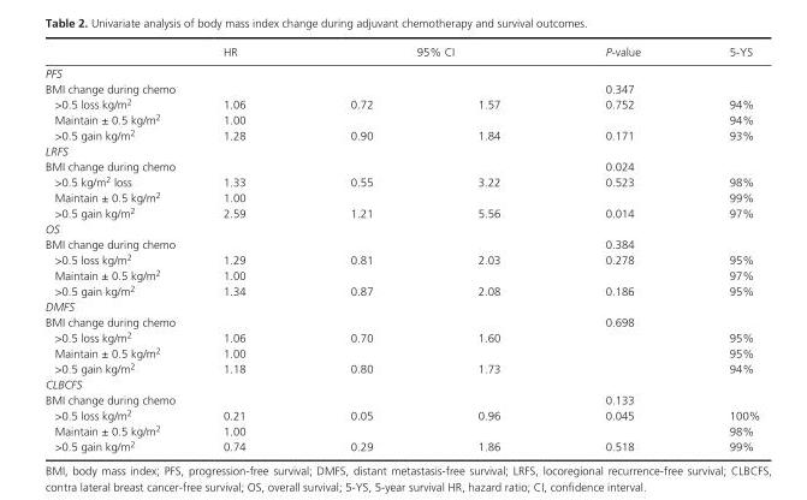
<table><thead><tr><td></td><td>HR</td><td colspan="2">95% CI</td><td>P- value</td><td>5- YS</td></tr><tr><td colspan="6">PFS</td></tr><tr><td>BMI change during chemo</td><td></td><td></td><td></td><td>0.347</td><td></td></tr></thead><tbody><tr><td>&gt;0.5 loss kg/m<sup>2</sup></td><td>1.06</td><td>0.72</td><td>1.57</td><td>0.752</td><td>94%</td></tr><tr><td>Maintain ± 0.5 kg/m<sup>2</sup></td><td>1.00</td><td></td><td></td><td></td><td>94%</td></tr><tr><td>&gt;0.5 gain kg/m<sup>2</sup></td><td>1.28</td><td>0.90</td><td>1.84</td><td>0.171</td><td>93%</td></tr><tr><td colspan="6">LRFS</td></tr><tr><td>BMI change during chemo</td><td></td><td></td><td></td><td>0.024</td><td></td></tr><tr><td>&gt;0.5 kg/m<sup>2</sup> loss</td><td>1.33</td><td>0.55</td><td>3.22</td><td>0.523</td><td>98%</td></tr><tr><td>Maintain ± 0.5 kg/m<sup>2</sup></td><td>1.00</td><td></td><td></td><td></td><td>99%</td></tr><tr><td>&gt;0.5 gain kg/m<sup>2</sup></td><td>2.59</td><td>1.21</td><td>5.56</td><td>0.014</td><td>97%</td></tr><tr><td colspan="6">OS</td></tr><tr><td>BMI change during chemo</td><td></td><td></td><td></td><td>0.384</td><td></td></tr><tr><td>&gt;0.5 loss kg/m<sup>2</sup></td><td>1.29</td><td>0.81</td><td>2.03</td><td>0.278</td><td>95%</td></tr><tr><td>Maintain ± 0.5 kg/m<sup>2</sup></td><td>1.00</td><td></td><td></td><td></td><td>97%</td></tr><tr><td>&gt;0.5 gain kg/m<sup>2</sup></td><td>1.34</td><td>0.87</td><td>2.08</td><td>0.186</td><td>95%</td></tr><tr><td colspan="6">DMFS</td></tr><tr><td>BMI change during chemo</td><td></td><td></td><td></td><td>0.698</td><td></td></tr><tr><td>&gt;0.5 loss kg/m<sup>2</sup></td><td>1.06</td><td>0.70</td><td>1.60</td><td></td><td>95%</td></tr><tr><td>Maintain ± 0.5 kg/m<sup>2</sup></td><td>1.00</td><td></td><td></td><td></td><td>95%</td></tr><tr><td>&gt;0.5 gain kg/m<sup>2</sup></td><td>1.18</td><td>0.80</td><td>1.73</td><td></td><td>94%</td></tr><tr><td colspan="6">CLBCFS</td></tr><tr><td>BMI change during chemo</td><td></td><td></td><td></td><td>0.133</td><td></td></tr><tr><td>&gt;0.5 loss kg/m<sup>2</sup></td><td>0.21</td><td>0.05</td><td>0.96</td><td>0.045</td><td>100%</td></tr><tr><td>Maintain ± 0.5 kg/m<sup>2</sup></td><td>1.00</td><td></td><td></td><td></td><td>98%</td></tr><tr><td>&gt;0.5 gain kg/m<sup>2</sup></td><td>0.74</td><td>0.29</td><td>1.86</td><td>0.518</td><td>99%</td></tr></tbody></table>